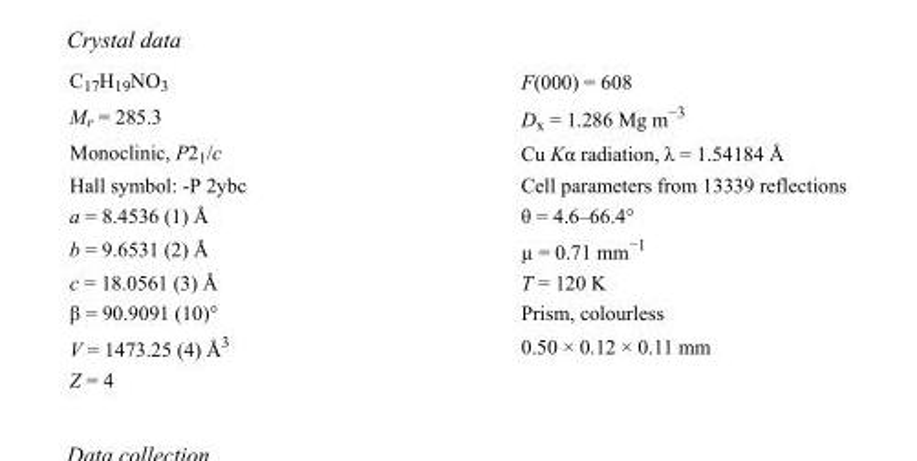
<table><tbody><tr><td>C<sub>17</sub>H<sub>19</sub>NO<sub>3</sub></td><td>F(000) = 608</td></tr><tr><td>M<sub>r</sub> = 285.3</td><td>D<sub>x</sub> = 1.286 Mg m<sup>−3</sup></td></tr><tr><td>Monoclinic, P2<sub>1</sub>/c</td><td>Cu Kα radiation, λ = 1.54184 Å</td></tr><tr><td>Hall symbol: -P 2ybc</td><td>Cell parameters from 13339 reflections</td></tr><tr><td>a = 8.4536 (1) Å</td><td>θ = 4.6–66.4°</td></tr><tr><td>b = 9.6531 (2) Å</td><td>µ = 0.71 mm<sup>−1</sup></td></tr><tr><td>c = 18.0561 (3) Å</td><td>T = 120 K</td></tr><tr><td>β = 90.9091 (10)°</td><td>Prism, colourless</td></tr><tr><td>V = 1473.25 (4) Å<sup>3</sup></td><td>0.50 × 0.12 × 0.11 mm</td></tr><tr><td>Z = 4</td><td></td></tr></tbody></table>